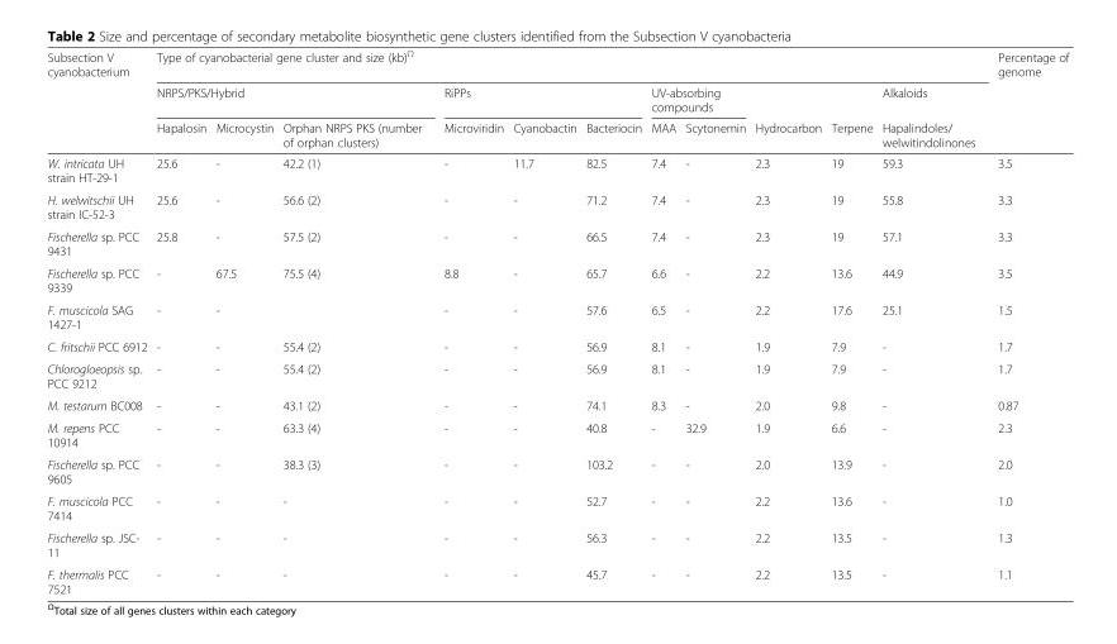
<table><thead><tr><td rowspan="3">Subsection V cyanobacterium</td><td colspan="11">Type of cyanobacterial gene cluster and size (kb)<sup>Ω</sup></td><td rowspan="3">Percentage of genome</td></tr><tr><td colspan="3">NRPS/PKS/Hybrid</td><td colspan="3">RiPPs</td><td colspan="2">UV-absorbing compounds</td><td rowspan="2">Hydrocarbon</td><td rowspan="2">Terpene</td><td rowspan="2">Alkaloids Hapalindoles/ welwitindolinones</td></tr><tr><td>Hapalosin</td><td>Microcystin</td><td>Orphan NRPS PKS (number of orphan clusters)</td><td>Microviridin</td><td>Cyanobactin</td><td>Bacteriocin</td><td>MAA</td><td>Scytonemin</td></tr></thead><tbody><tr><td>W. intricata UH strain HT-29-1</td><td>25.6</td><td>-</td><td>42.2 (1)</td><td>-</td><td>11.7</td><td>82.5</td><td>7.4</td><td>-</td><td>2.3</td><td>19</td><td>59.3</td><td>3.5</td></tr><tr><td>H. welwitschii UH strain IC-52-3</td><td>25.6</td><td>-</td><td>56.6 (2)</td><td>-</td><td>-</td><td>71.2</td><td>7.4</td><td>-</td><td>2.3</td><td>19</td><td>55.8</td><td>3.3</td></tr><tr><td>Fischerella sp. PCC 9431</td><td>25.8</td><td>-</td><td>57.5 (2)</td><td>-</td><td>-</td><td>66.5</td><td>7.4</td><td>-</td><td>2.3</td><td>19</td><td>57.1</td><td>3.3</td></tr><tr><td>Fischerella sp. PCC 9339</td><td>-</td><td>67.5</td><td>75.5 (4)</td><td>8.8</td><td>-</td><td>65.7</td><td>6.6</td><td>-</td><td>2.2</td><td>13.6</td><td>44.9</td><td>3.5</td></tr><tr><td>F. muscicola SAG 1427-1</td><td>-</td><td>-</td><td></td><td>-</td><td>-</td><td>57.6</td><td>6.5</td><td>-</td><td>2.2</td><td>17.6</td><td>25.1</td><td>1.5</td></tr><tr><td>C. fritschii PCC 6912</td><td>-</td><td>-</td><td>55.4 (2)</td><td>-</td><td>-</td><td>56.9</td><td>8.1</td><td>-</td><td>1.9</td><td>7.9</td><td>-</td><td>1.7</td></tr><tr><td>Chlorogloeopsis sp. PCC 9212</td><td>-</td><td>-</td><td>55.4 (2)</td><td>-</td><td>-</td><td>56.9</td><td>8.1</td><td>-</td><td>1.9</td><td>7.9</td><td>-</td><td>1.7</td></tr><tr><td>M. testarum BC008</td><td>-</td><td>-</td><td>43.1 (2)</td><td>-</td><td>-</td><td>74.1</td><td>8.3</td><td>-</td><td>2.0</td><td>9.8</td><td>-</td><td>0.87</td></tr><tr><td>M. repens PCC 10914</td><td>-</td><td>-</td><td>63.3 (4)</td><td>-</td><td>-</td><td>40.8</td><td>-</td><td>32.9</td><td>1.9</td><td>6.6</td><td>-</td><td>2.3</td></tr><tr><td>Fischerella sp. PCC 9605</td><td>-</td><td>-</td><td>38.3 (3)</td><td>-</td><td>-</td><td>103.2</td><td>-</td><td>-</td><td>2.0</td><td>13.9</td><td>-</td><td>2.0</td></tr><tr><td>F. muscicola PCC 7414</td><td>-</td><td>-</td><td>-</td><td>-</td><td>-</td><td>52.7</td><td>-</td><td>-</td><td>2.2</td><td>13.6</td><td>-</td><td>1.0</td></tr><tr><td>Fischerella sp. JSC- 11</td><td>-</td><td>-</td><td>-</td><td>-</td><td>-</td><td>56.3</td><td>-</td><td>-</td><td>2.2</td><td>13.5</td><td>-</td><td>1.3</td></tr><tr><td>F. thermalis PCC 7521</td><td>-</td><td>-</td><td>-</td><td>-</td><td>-</td><td>45.7</td><td>-</td><td>-</td><td>2.2</td><td>13.5</td><td>-</td><td>1.1</td></tr></tbody></table>